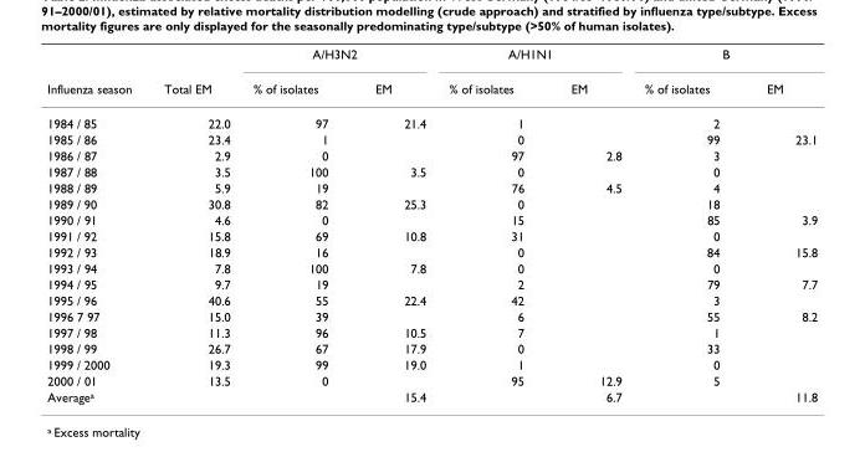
<table><thead><tr><td rowspan="2">Influenza season</td><td rowspan="2">Total EM</td><td colspan="2">A/H3N2</td><td colspan="2">A/H1N1</td><td colspan="2">B</td></tr><tr><td>% of isolates</td><td>EM</td><td>% of isolates</td><td>EM</td><td>% of isolates</td><td>EM</td></tr></thead><tbody><tr><td>1984 / 85</td><td>22.0</td><td>97</td><td>21.4</td><td>1</td><td></td><td>2</td><td></td></tr><tr><td>1985 / 86</td><td>23.4</td><td>1</td><td></td><td>0</td><td></td><td>99</td><td>23.1</td></tr><tr><td>1986 / 87</td><td>2.9</td><td>0</td><td></td><td>97</td><td>2.8</td><td>3</td><td></td></tr><tr><td>1987 / 88</td><td>3.5</td><td>100</td><td>3.5</td><td>0</td><td></td><td>0</td><td></td></tr><tr><td>1988 / 89</td><td>5.9</td><td>19</td><td></td><td>76</td><td>4.5</td><td>4</td><td></td></tr><tr><td>1989 / 90</td><td>30.8</td><td>82</td><td>25.3</td><td>0</td><td></td><td>18</td><td></td></tr><tr><td>1990 / 91</td><td>4.6</td><td>0</td><td></td><td>15</td><td></td><td>85</td><td>3.9</td></tr><tr><td>1991 / 92</td><td>15.8</td><td>69</td><td>10.8</td><td>31</td><td></td><td>0</td><td></td></tr><tr><td>1992 / 93</td><td>18.9</td><td>16</td><td></td><td>0</td><td></td><td>84</td><td>15.8</td></tr><tr><td>1993 / 94</td><td>7.8</td><td>100</td><td>7.8</td><td>0</td><td></td><td>0</td><td></td></tr><tr><td>1994 / 95</td><td>9.7</td><td>19</td><td></td><td>2</td><td></td><td>79</td><td>7.7</td></tr><tr><td>1995 / 96</td><td>40.6</td><td>55</td><td>22.4</td><td>42</td><td></td><td>3</td><td></td></tr><tr><td>1996 7 97</td><td>15.0</td><td>39</td><td></td><td>6</td><td></td><td>55</td><td>8.2</td></tr><tr><td>1997 / 98</td><td>11.3</td><td>96</td><td>10.5</td><td>7</td><td></td><td>1</td><td></td></tr><tr><td>1998 / 99</td><td>26.7</td><td>67</td><td>17.9</td><td>0</td><td></td><td>33</td><td></td></tr><tr><td>1999 / 2000</td><td>19.3</td><td>99</td><td>19.0</td><td>1</td><td></td><td>0</td><td></td></tr><tr><td>2000 / 01</td><td>13.5</td><td>0</td><td></td><td>95</td><td>12.9</td><td>5</td><td></td></tr><tr><td>Average<sup>a</sup></td><td></td><td></td><td>15.4</td><td></td><td>6.7</td><td></td><td>11.8</td></tr></tbody></table>